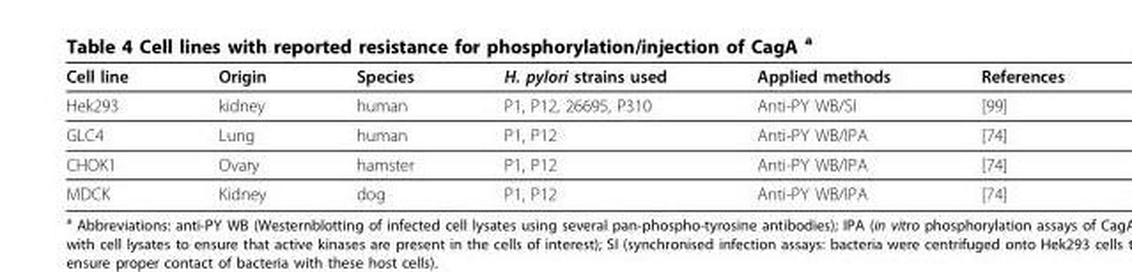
<table><thead><tr><td>Cell line</td><td>Origin</td><td>Species</td><td>H. pylori strains used</td><td>Applied methods</td><td>References</td></tr></thead><tbody><tr><td>Hek293</td><td>kidney</td><td>human</td><td>P1, P12, 26695, P310</td><td>Anti-PY WB/SI</td><td>[99]</td></tr><tr><td>GLC4</td><td>Lung</td><td>human</td><td>P1, P12</td><td>Anti-PY WB/IPA</td><td>[74]</td></tr><tr><td>CHOK1</td><td>Ovary</td><td>hamster</td><td>P1, P12</td><td>Anti-PY WB/IPA</td><td>[74]</td></tr><tr><td>MDCK</td><td>Kidney</td><td>dog</td><td>P1, P12</td><td>Anti-PY WB/IPA</td><td>[74]</td></tr></tbody></table>